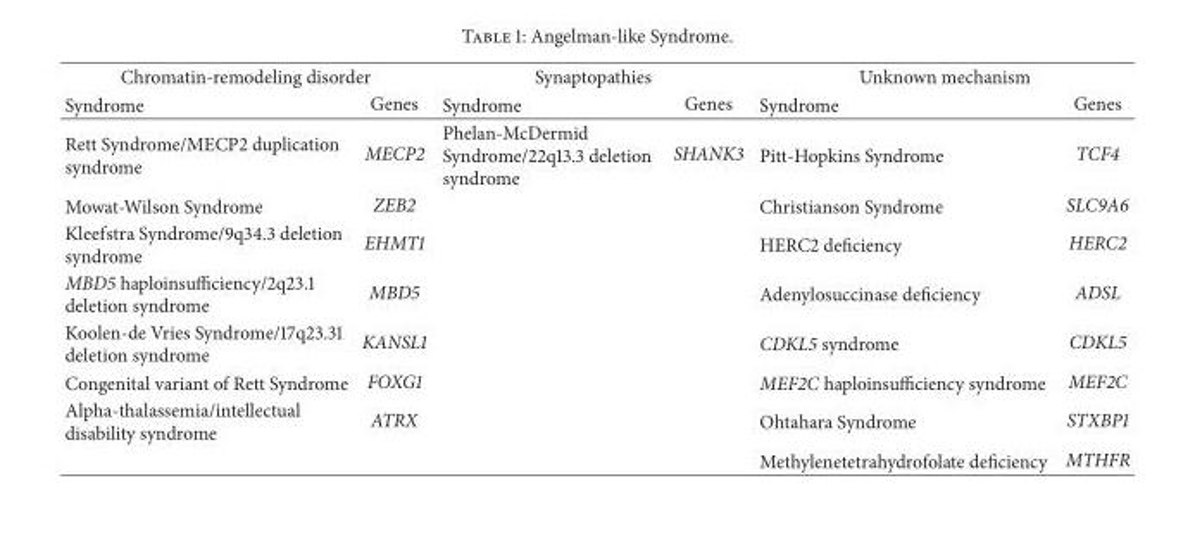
<table><thead><tr><td colspan="2">Chromatin-remodeling disorder</td><td colspan="2">Synaptopathies</td><td colspan="2">Unknown mechanism</td></tr><tr><td>Syndrome</td><td>Genes</td><td>Syndrome</td><td>Genes</td><td>Syndrome</td><td>Genes</td></tr></thead><tbody><tr><td>Rett Syndrome/MECP2 duplication syndrome</td><td>MECP2</td><td>Phelan-McDermid Syndrome/22q13.3 deletion syndrome</td><td>SHANK3</td><td>Pitt-Hopkins Syndrome</td><td>TCF4</td></tr><tr><td>Mowat-Wilson Syndrome</td><td>ZEB2</td><td></td><td></td><td>Christianson Syndrome</td><td>SLC9A6</td></tr><tr><td>Kleefstra Syndrome/9q34.3 deletion syndrome</td><td>EHMT1</td><td></td><td></td><td>HERC2 deficiency</td><td>HERC2</td></tr><tr><td>MBD5 haploinsufficiency/2q23.1 deletion syndrome</td><td>MBD5</td><td></td><td></td><td>Adenylosuccinase deficiency</td><td>ADSL</td></tr><tr><td>Koolen-de Vries Syndrome/17q23.31 deletion syndrome</td><td>KANSL1</td><td></td><td></td><td>CDKL5 syndrome</td><td>CDKL5</td></tr><tr><td>Congenital variant of Rett Syndrome</td><td>FOXG1</td><td></td><td></td><td>MEF2C haploinsufficiency syndrome</td><td>MEF2C</td></tr><tr><td rowspan="2">Alpha-thalassemia/intellectual disability syndrome</td><td>ATRX</td><td></td><td></td><td>Ohtahara Syndrome</td><td>STXBP1</td></tr><tr><td></td><td></td><td></td><td>Methylenetetrahydrofolate deficiency</td><td>MTHFR</td></tr></tbody></table>